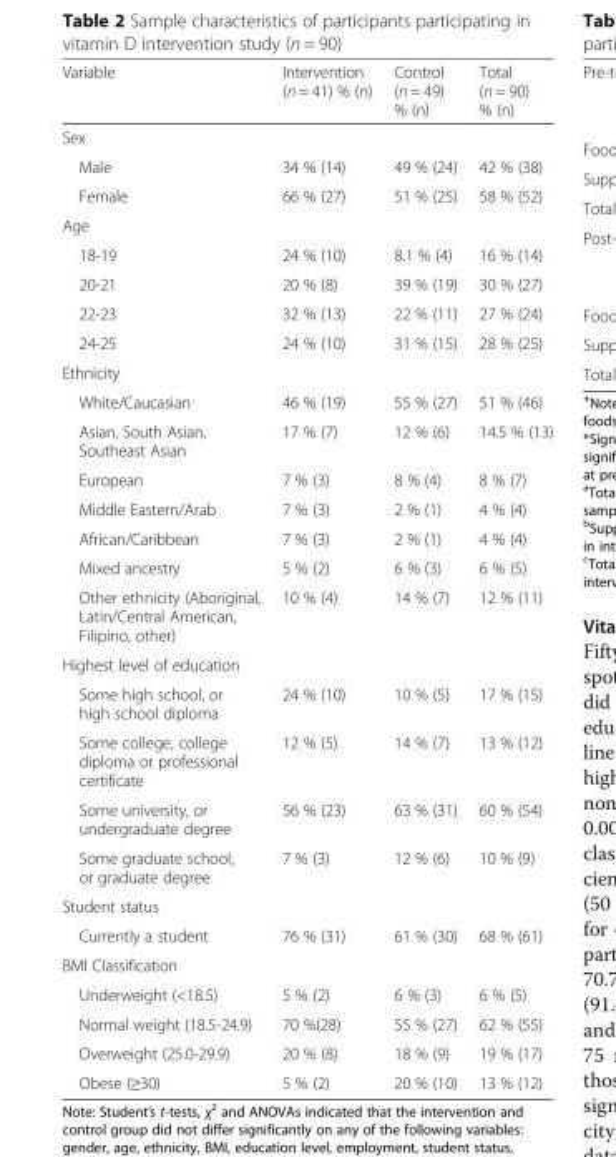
<table><thead><tr><td>Variable</td><td>Intervention (n = 41) % (n)</td><td>Control (n = 49) % (n)</td><td>Total (n = 90) % (n)</td></tr></thead><tbody><tr><td colspan="4">Sex</td></tr><tr><td>Male</td><td>34 % (14)</td><td>49 % (24)</td><td>42 % (38)</td></tr><tr><td>Female</td><td>66 % (27)</td><td>51 % (25)</td><td>58 % (52)</td></tr><tr><td colspan="4">Age</td></tr><tr><td>18-19</td><td>24 % (10)</td><td>8.1 % (4)</td><td>16 % (14)</td></tr><tr><td>20-21</td><td>20 % (8)</td><td>39 % (19)</td><td>30 % (27)</td></tr><tr><td>22-23</td><td>32 % (13)</td><td>22 % (11)</td><td>27 % (24)</td></tr><tr><td>24-25</td><td>24 % (10)</td><td>31 % (15)</td><td>28 % (25)</td></tr><tr><td colspan="4">Ethnicity</td></tr><tr><td>White/Caucasian</td><td>46 % (19)</td><td>55 % (27)</td><td>51 % (46)</td></tr><tr><td>Asian, South Asian, Southeast Asian</td><td>17 % (7)</td><td>12 % (6)</td><td>14.5 % (13)</td></tr><tr><td>European</td><td>7 % (3)</td><td>8 % (4)</td><td>8 % (7)</td></tr><tr><td>Middle Eastern/Arab</td><td>7 % (3)</td><td>2 % (1)</td><td>4 % (4)</td></tr><tr><td>African/Caribbean</td><td>7 % (3)</td><td>2 % (1)</td><td>4 % (4)</td></tr><tr><td>Mixed ancestry</td><td>5 % (2)</td><td>6 % (3)</td><td>6 % (5)</td></tr><tr><td>Other ethnicity (Aboriginal, Latin/Central American, Filipino, other)</td><td>10 % (4)</td><td>14 % (7)</td><td>12 % (11)</td></tr><tr><td colspan="4">Highest level of education</td></tr><tr><td>Some high school, or high school diploma</td><td>24 % (10)</td><td>10 % (5)</td><td>17 % (15)</td></tr><tr><td>Some college, college diploma or professional certificate</td><td>12 % (5)</td><td>14 % (7)</td><td>13 % (12)</td></tr><tr><td>Some university, or undergraduate degree</td><td>56 % (23)</td><td>63 % (31)</td><td>60 % (54)</td></tr><tr><td>Some graduate school, or graduate degree</td><td>7 % (3)</td><td>12 % (6)</td><td>10 % (9)</td></tr><tr><td colspan="4">Student status</td></tr><tr><td>Currently a student</td><td>76 % (31)</td><td>61 % (30)</td><td>68 % (61)</td></tr><tr><td colspan="4">BMI Classification</td></tr><tr><td>Underweight (&lt;18.5)</td><td>5 % (2)</td><td>6 % (3)</td><td>6 % (5)</td></tr><tr><td>Normal weight (18.5-24.9)</td><td>70 %(28)</td><td>55 % (27)</td><td>62 % (55)</td></tr><tr><td>Overweight (25.0-29.9)</td><td>20 % (8)</td><td>18 % (9)</td><td>19 % (17)</td></tr><tr><td>Obese (≥30)</td><td>5 % (2)</td><td>20 % (10)</td><td>13 % (12)</td></tr></tbody></table>